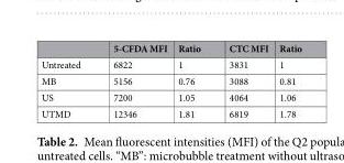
<table><thead><tr><td></td><td>5-CFDA MFI</td><td>Ratio</td><td>CTC MFI</td><td>Ratio</td></tr></thead><tbody><tr><td>Untreated</td><td>6822</td><td>1</td><td>3831</td><td>1</td></tr><tr><td>MB</td><td>5156</td><td>0.76</td><td>3088</td><td>0.81</td></tr><tr><td>US</td><td>7200</td><td>1.05</td><td>4064</td><td>1.06</td></tr><tr><td>UTMD</td><td>12346</td><td>1.81</td><td>6819</td><td>1.78</td></tr></tbody></table>